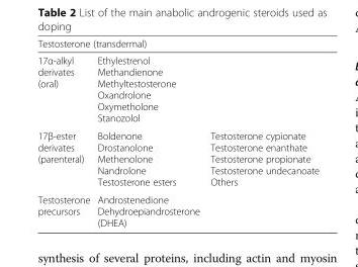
<table><thead><tr><td colspan="3">Testosterone (transdermal)</td></tr><tr><td>17α-alkyl derivates (oral)</td><td>Ethylestrenol Methandienone Methyltestosterone Oxandrolone Oxymetholone Stanozolol</td><td></td></tr></thead><tbody><tr><td>17β-ester derivates (parenteral)</td><td>Boldenone Drostanolone Methenolone Nandrolone Testosterone esters</td><td>Testosterone cypionate Testosterone enanthate Testosterone propionate Testosterone undecanoate Others</td></tr><tr><td>Testosterone precursors</td><td>Androstenedione Dehydroepiandrosterone (DHEA)</td><td></td></tr></tbody></table>